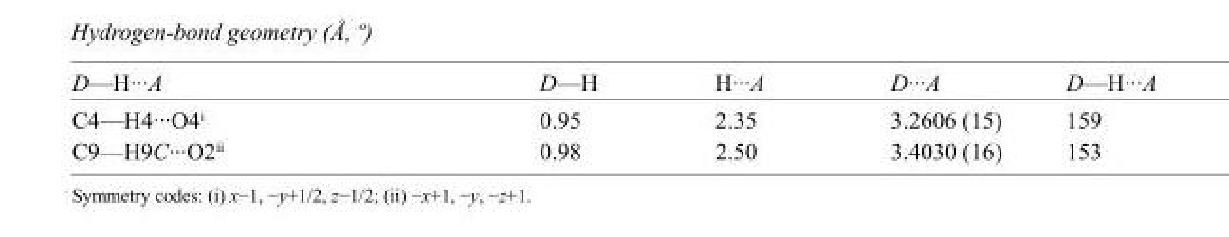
<table><tbody><tr><td>D—H···A</td><td>D—H</td><td>H···A</td><td>D···A</td><td>D—H···A</td></tr><tr><td>C4—H4···O4<sup>i</sup></td><td>0.95</td><td>2.35</td><td>3.2606 (15)</td><td>159</td></tr><tr><td>C9—H9C···O2<sup>ii</sup></td><td>0.98</td><td>2.50</td><td>3.4030 (16)</td><td>153</td></tr></tbody></table>